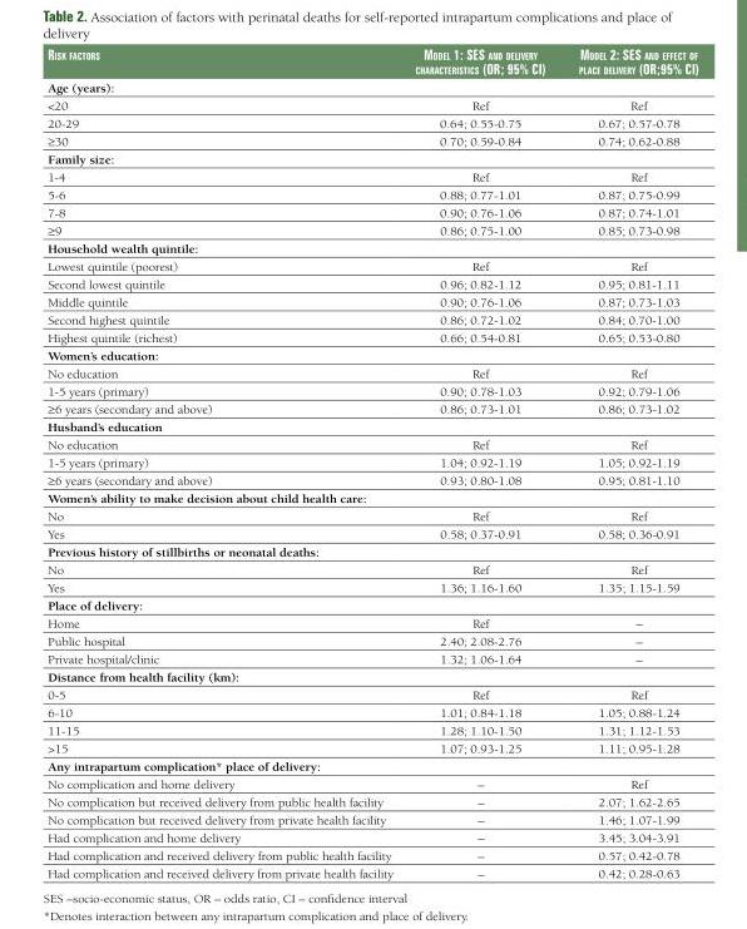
<table><thead><tr><td>risk faCtors</td><td>Model 1: ses aNd delivery CharaCteristiCs (or; 95% Ci)</td><td>Model 2: ses aNd effeCt of plaCe delivery (or;95% Ci)</td></tr></thead><tbody><tr><td colspan="3">Age (years):</td></tr><tr><td>&lt;20</td><td>Ref</td><td>Ref</td></tr><tr><td>20-29</td><td>0.64; 0.55-0.75</td><td>0.67; 0.57-0.78</td></tr><tr><td>≥30</td><td>0.70; 0.59-0.84</td><td>0.74; 0.62-0.88</td></tr><tr><td colspan="3">Family size:</td></tr><tr><td>1-4</td><td>Ref</td><td>Ref</td></tr><tr><td>5-6</td><td>0.88; 0.77-1.01</td><td>0.87; 0.75-0.99</td></tr><tr><td>7-8</td><td>0.90; 0.76-1.06</td><td>0.87; 0.74-1.01</td></tr><tr><td>≥9</td><td>0.86; 0.75-1.00</td><td>0.85; 0.73-0.98</td></tr><tr><td colspan="3">Household wealth quintile:</td></tr><tr><td>Lowest quintile (poorest)</td><td>Ref</td><td>Ref</td></tr><tr><td>Second lowest quintile</td><td>0.96; 0.82-1.12</td><td>0.95; 0.81-1.11</td></tr><tr><td>Middle quintile</td><td>0.90; 0.76-1.06</td><td>0.87; 0.73-1.03</td></tr><tr><td>Second highest quintile</td><td>0.86; 0.72-1.02</td><td>0.84; 0.70-1.00</td></tr><tr><td>Highest quintile (richest)</td><td>0.66; 0.54-0.81</td><td>0.65; 0.53-0.80</td></tr><tr><td colspan="3">Women’s education:</td></tr><tr><td>No education</td><td>Ref</td><td>Ref</td></tr><tr><td>1-5 years (primary)</td><td>0.90; 0.78-1.03</td><td>0.92; 0.79-1.06</td></tr><tr><td>≥6 years (secondary and above)</td><td>0.86; 0.73-1.01</td><td>0.86; 0.73-1.02</td></tr><tr><td colspan="3">Husband’s education</td></tr><tr><td>No education</td><td>Ref</td><td>Ref</td></tr><tr><td>1-5 years (primary)</td><td>1.04; 0.92-1.19</td><td>1.05; 0.92-1.19</td></tr><tr><td>≥6 years (secondary and above)</td><td>0.93; 0.80-1.08</td><td>0.95; 0.81-1.10</td></tr><tr><td colspan="3">Women’s ability to make decision about child health care:</td></tr><tr><td>No</td><td>Ref</td><td>Ref</td></tr><tr><td>Yes</td><td>0.58; 0.37-0.91</td><td>0.58; 0.36-0.91</td></tr><tr><td colspan="3">Previous history of stillbirths or neonatal deaths:</td></tr><tr><td>No</td><td>Ref</td><td>Ref</td></tr><tr><td>Yes</td><td>1.36; 1.16-1.60</td><td>1.35; 1.15-1.59</td></tr><tr><td colspan="3">Place of delivery:</td></tr><tr><td>Home</td><td>Ref</td><td>–</td></tr><tr><td>Public hospital</td><td>2.40; 2.08-2.76</td><td>–</td></tr><tr><td>Private hospital/clinic</td><td>1.32; 1.06-1.64</td><td>–</td></tr><tr><td colspan="3">Distance from health facility (km):</td></tr><tr><td>0-5</td><td>Ref</td><td>Ref</td></tr><tr><td>6-10</td><td>1.01; 0.84-1.18</td><td>1.05; 0.88-1.24</td></tr><tr><td>11-15</td><td>1.28; 1.10-1.50</td><td>1.31; 1.12-1.53</td></tr><tr><td>&gt;15</td><td>1.07; 0.93-1.25</td><td>1.11; 0.95-1.28</td></tr><tr><td colspan="3">Any intrapartum complication* place of delivery:</td></tr><tr><td>No complication and home delivery</td><td>–</td><td>Ref</td></tr><tr><td>No complication but received delivery from public health facility</td><td>–</td><td>2.07; 1.62-2.65</td></tr><tr><td>No complication but received delivery from private health facility</td><td>–</td><td>1.46; 1.07-1.99</td></tr><tr><td>Had complication and home delivery</td><td>–</td><td>3.45; 3.04-3.91</td></tr><tr><td>Had complication and received delivery from public health facility</td><td>–</td><td>0.57; 0.42-0.78</td></tr><tr><td>Had complication and received delivery from private health facility</td><td>–</td><td>0.42; 0.28-0.63</td></tr></tbody></table>